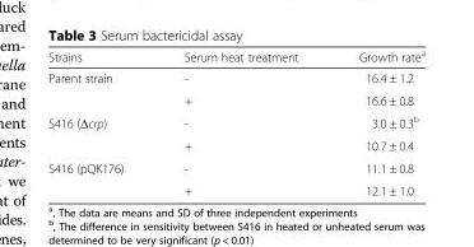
<table><thead><tr><td>Strains</td><td>Serum heat treatment</td><td>Growth rate<sup>a</sup></td></tr></thead><tbody><tr><td rowspan="2">Parent strain</td><td>-</td><td>16.4 ± 1.2</td></tr><tr><td>+</td><td>16.6 ± 0.8</td></tr><tr><td rowspan="2">S416 (Δcrp)</td><td>-</td><td>3.0 ± 0.3<sup>b</sup></td></tr><tr><td>+</td><td>10.7 ± 0.4</td></tr><tr><td rowspan="2">S416 (pQK176)</td><td>-</td><td>11.1 ± 0.8</td></tr><tr><td>+</td><td>12.1 ± 1.0</td></tr></tbody></table>